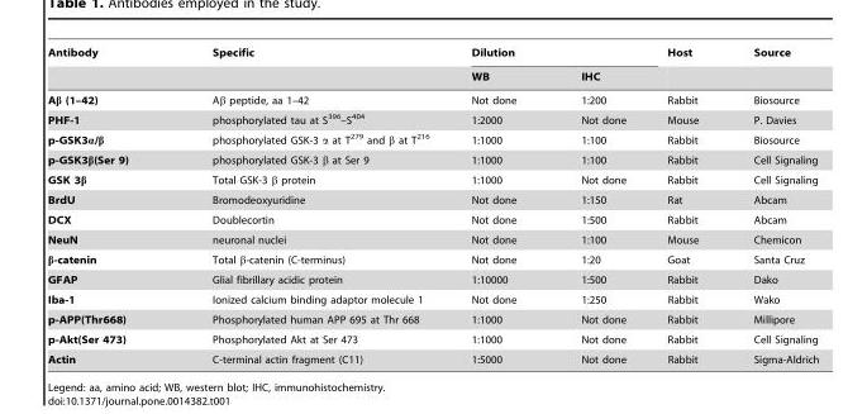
<table><thead><tr><td rowspan="2">Antibody</td><td rowspan="2">Specific</td><td colspan="2">Dilution</td><td rowspan="2">Host</td><td rowspan="2">Source</td></tr><tr><td>WB</td><td>IHC</td></tr></thead><tbody><tr><td>Aβ (1–42)</td><td>Aβ peptide, aa 1–42</td><td>Not done</td><td>1:200</td><td>Rabbit</td><td>Biosource</td></tr><tr><td>PHF-1</td><td>phosphorylated tau at S<sup>396</sup>–S<sup>404</sup></td><td>1:2000</td><td>Not done</td><td>Mouse</td><td>P. Davies</td></tr><tr><td>p-GSK3α/β</td><td>phosphorylated GSK-3 α at T<sup>279</sup> and β at T<sup>216</sup></td><td>1:1000</td><td>1:100</td><td>Rabbit</td><td>Biosource</td></tr><tr><td>p-GSK3β(Ser 9)</td><td>phosphorylated GSK-3 β at Ser 9</td><td>1:1000</td><td>1:100</td><td>Rabbit</td><td>Cell Signaling</td></tr><tr><td>GSK 3β</td><td>Total GSK-3 β protein</td><td>1:1000</td><td>Not done</td><td>Rabbit</td><td>Cell Signaling</td></tr><tr><td>BrdU</td><td>Bromodeoxyuridine</td><td>Not done</td><td>1:150</td><td>Rat</td><td>Abcam</td></tr><tr><td>DCX</td><td>Doublecortin</td><td>Not done</td><td>1:500</td><td>Rabbit</td><td>Abcam</td></tr><tr><td>NeuN</td><td>neuronal nuclei</td><td>Not done</td><td>1:100</td><td>Mouse</td><td>Chemicon</td></tr><tr><td>β-catenin</td><td>Total β-catenin (C-terminus)</td><td>Not done</td><td>1:20</td><td>Goat</td><td>Santa Cruz</td></tr><tr><td>GFAP</td><td>Glial fibrillary acidic protein</td><td>1:10000</td><td>1:500</td><td>Rabbit</td><td>Dako</td></tr><tr><td>Iba-1</td><td>Ionized calcium binding adaptor molecule 1</td><td>Not done</td><td>1:250</td><td>Rabbit</td><td>Wako</td></tr><tr><td>p-APP(Thr668)</td><td>Phosphorylated human APP 695 at Thr 668</td><td>1:1000</td><td>Not done</td><td>Rabbit</td><td>Millipore</td></tr><tr><td>p-Akt(Ser 473)</td><td>Phosphorylated Akt at Ser 473</td><td>1:1000</td><td>Not done</td><td>Rabbit</td><td>Cell Signaling</td></tr><tr><td>Actin</td><td>C-terminal actin fragment (C11)</td><td>1:5000</td><td>Not done</td><td>Rabbit</td><td>Sigma-Aldrich</td></tr></tbody></table>